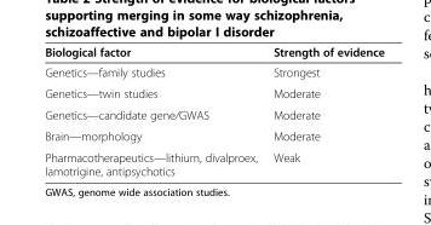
<table><thead><tr><td>Biological factor</td><td>Strength of evidence</td></tr></thead><tbody><tr><td>Genetics—family studies</td><td>Strongest</td></tr><tr><td>Genetics—twin studies</td><td>Moderate</td></tr><tr><td>Genetics—candidate gene/GWAS</td><td>Moderate</td></tr><tr><td>Brain—morphology</td><td>Moderate</td></tr><tr><td>Pharmacotherapeutics—lithium, divalproex, lamotrigine, antipsychotics</td><td>Weak</td></tr></tbody></table>